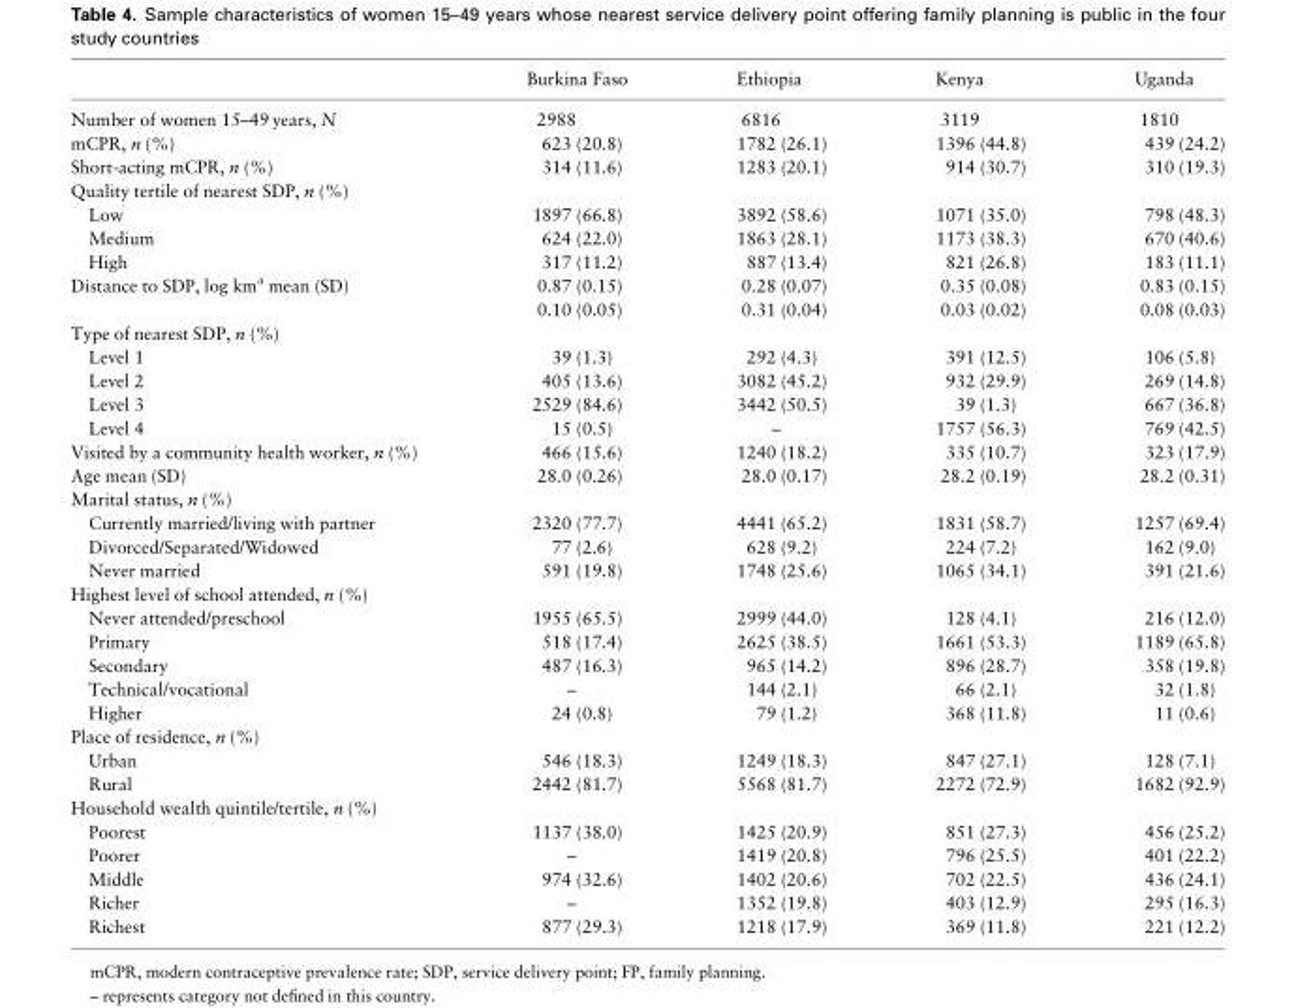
<table><thead><tr><td></td><td>Burkina Faso</td><td>Ethiopia</td><td>Kenya</td><td>Uganda</td></tr></thead><tbody><tr><td>Number of women 15–49 years, N</td><td>2988</td><td>6816</td><td>3119</td><td>1810</td></tr><tr><td>mCPR, n (%)</td><td>623 (20.8)</td><td>1782 (26.1)</td><td>1396 (44.8)</td><td>439 (24.2)</td></tr><tr><td>Short-acting mCPR, n (%)</td><td>314 (11.6)</td><td>1283 (20.1)</td><td>914 (30.7)</td><td>310 (19.3)</td></tr><tr><td colspan="5">Quality tertile of nearest SDP, n (%)</td></tr><tr><td>Low</td><td>1897 (66.8)</td><td>3892 (58.6)</td><td>1071 (35.0)</td><td>798 (48.3)</td></tr><tr><td>Medium</td><td>624 (22.0)</td><td>1863 (28.1)</td><td>1173 (38.3)</td><td>670 (40.6)</td></tr><tr><td>High</td><td>317 (11.2)</td><td>887 (13.4)</td><td>821 (26.8)</td><td>183 (11.1)</td></tr><tr><td rowspan="2">Distance to SDP, log km<sup>a</sup> mean (SD)</td><td>0.87 (0.15)</td><td>0.28 (0.07)</td><td>0.35 (0.08)</td><td>0.83 (0.15)</td></tr><tr><td>0.10 (0.05)</td><td>0.31 (0.04)</td><td>0.03 (0.02)</td><td>0.08 (0.03)</td></tr><tr><td colspan="5">Type of nearest SDP, n (%)</td></tr><tr><td>Level 1</td><td>39 (1.3)</td><td>292 (4.3)</td><td>391 (12.5)</td><td>106 (5.8)</td></tr><tr><td>Level 2</td><td>405 (13.6)</td><td>3082 (45.2)</td><td>932 (29.9)</td><td>269 (14.8)</td></tr><tr><td>Level 3</td><td>2529 (84.6)</td><td>3442 (50.5)</td><td>39 (1.3)</td><td>667 (36.8)</td></tr><tr><td>Level 4</td><td>15 (0.5)</td><td>–</td><td>1757 (56.3)</td><td>769 (42.5)</td></tr><tr><td>Visited by a community health worker, n (%)</td><td>466 (15.6)</td><td>1240 (18.2)</td><td>335 (10.7)</td><td>323 (17.9)</td></tr><tr><td>Age mean (SD)</td><td>28.0 (0.26)</td><td>28.0 (0.17)</td><td>28.2 (0.19)</td><td>28.2 (0.31)</td></tr><tr><td colspan="5">Marital status, n (%)</td></tr><tr><td>Currently married/living with partner</td><td>2320 (77.7)</td><td>4441 (65.2)</td><td>1831 (58.7)</td><td>1257 (69.4)</td></tr><tr><td>Divorced/Separated/Widowed</td><td>77 (2.6)</td><td>628 (9.2)</td><td>224 (7.2)</td><td>162 (9.0)</td></tr><tr><td>Never married</td><td>591 (19.8)</td><td>1748 (25.6)</td><td>1065 (34.1)</td><td>391 (21.6)</td></tr><tr><td colspan="5">Highest level of school attended, n (%)</td></tr><tr><td>Never attended/preschool</td><td>1955 (65.5)</td><td>2999 (44.0)</td><td>128 (4.1)</td><td>216 (12.0)</td></tr><tr><td>Primary</td><td>518 (17.4)</td><td>2625 (38.5)</td><td>1661 (53.3)</td><td>1189 (65.8)</td></tr><tr><td>Secondary</td><td>487 (16.3)</td><td>965 (14.2)</td><td>896 (28.7)</td><td>358 (19.8)</td></tr><tr><td>Technical/vocational</td><td>–</td><td>144 (2.1)</td><td>66 (2.1)</td><td>32 (1.8)</td></tr><tr><td>Higher</td><td>24 (0.8)</td><td>79 (1.2)</td><td>368 (11.8)</td><td>11 (0.6)</td></tr><tr><td colspan="5">Place of residence, n (%)</td></tr><tr><td>Urban</td><td>546 (18.3)</td><td>1249 (18.3)</td><td>847 (27.1)</td><td>128 (7.1)</td></tr><tr><td>Rural</td><td>2442 (81.7)</td><td>5568 (81.7)</td><td>2272 (72.9)</td><td>1682 (92.9)</td></tr><tr><td colspan="5">Household wealth quintile/tertile, n (%)</td></tr><tr><td>Poorest</td><td>1137 (38.0)</td><td>1425 (20.9)</td><td>851 (27.3)</td><td>456 (25.2)</td></tr><tr><td>Poorer</td><td>–</td><td>1419 (20.8)</td><td>796 (25.5)</td><td>401 (22.2)</td></tr><tr><td>Middle</td><td>974 (32.6)</td><td>1402 (20.6)</td><td>702 (22.5)</td><td>436 (24.1)</td></tr><tr><td>Richer</td><td>–</td><td>1352 (19.8)</td><td>403 (12.9)</td><td>295 (16.3)</td></tr><tr><td>Richest</td><td>877 (29.3)</td><td>1218 (17.9)</td><td>369 (11.8)</td><td>221 (12.2)</td></tr></tbody></table>